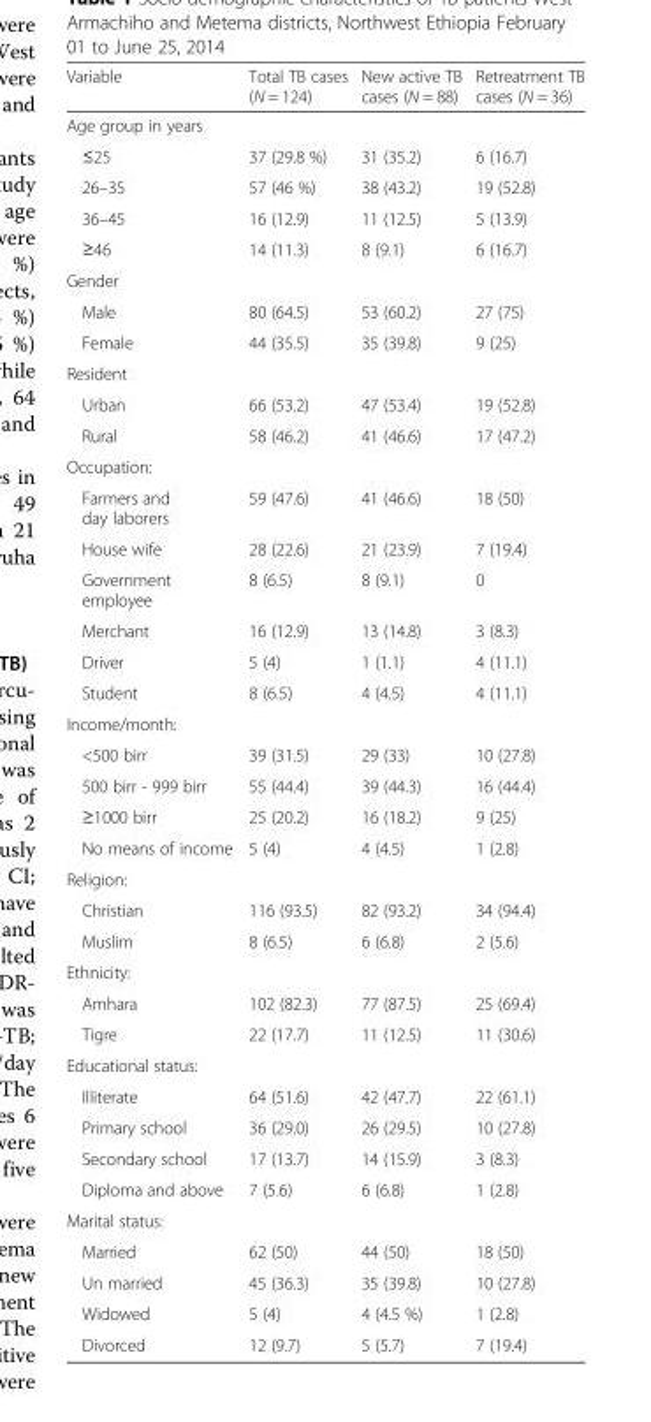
<table><thead><tr><td>Variable</td><td>Total TB cases (N = 124)</td><td>New active TB cases (N = 88)</td><td>Retreatment TB cases (N = 36)</td></tr></thead><tbody><tr><td colspan="4">Age group in years</td></tr><tr><td>≤25</td><td>37 (29.8 %)</td><td>31 (35.2)</td><td>6 (16.7)</td></tr><tr><td>26–35</td><td>57 (46 %)</td><td>38 (43.2)</td><td>19 (52.8)</td></tr><tr><td>36–45</td><td>16 (12.9)</td><td>11 (12.5)</td><td>5 (13.9)</td></tr><tr><td>≥46</td><td>14 (11.3)</td><td>8 (9.1)</td><td>6 (16.7)</td></tr><tr><td colspan="4">Gender</td></tr><tr><td>Male</td><td>80 (64.5)</td><td>53 (60.2)</td><td>27 (75)</td></tr><tr><td>Female</td><td>44 (35.5)</td><td>35 (39.8)</td><td>9 (25)</td></tr><tr><td colspan="4">Resident</td></tr><tr><td>Urban</td><td>66 (53.2)</td><td>47 (53.4)</td><td>19 (52.8)</td></tr><tr><td>Rural</td><td>58 (46.2)</td><td>41 (46.6)</td><td>17 (47.2)</td></tr><tr><td colspan="4">Occupation:</td></tr><tr><td>Farmers and day laborers</td><td>59 (47.6)</td><td>41 (46.6)</td><td>18 (50)</td></tr><tr><td>House wife</td><td>28 (22.6)</td><td>21 (23.9)</td><td>7 (19.4)</td></tr><tr><td>Government employee</td><td>8 (6.5)</td><td>8 (9.1)</td><td>0</td></tr><tr><td>Merchant</td><td>16 (12.9)</td><td>13 (14.8)</td><td>3 (8.3)</td></tr><tr><td>Driver</td><td>5 (4)</td><td>1 (1.1)</td><td>4 (11.1)</td></tr><tr><td>Student</td><td>8 (6.5)</td><td>4 (4.5)</td><td>4 (11.1)</td></tr><tr><td colspan="4">Income/month:</td></tr><tr><td>&lt;500 birr</td><td>39 (31.5)</td><td>29 (33)</td><td>10 (27.8)</td></tr><tr><td>500 birr - 999 birr</td><td>55 (44.4)</td><td>39 (44.3)</td><td>16 (44.4)</td></tr><tr><td>≥1000 birr</td><td>25 (20.2)</td><td>16 (18.2)</td><td>9 (25)</td></tr><tr><td>No means of income</td><td>5 (4)</td><td>4 (4.5)</td><td>1 (2.8)</td></tr><tr><td colspan="4">Religion:</td></tr><tr><td>Christian</td><td>116 (93.5)</td><td>82 (93.2)</td><td>34 (94.4)</td></tr><tr><td>Muslim</td><td>8 (6.5)</td><td>6 (6.8)</td><td>2 (5.6)</td></tr><tr><td colspan="4">Ethnicity:</td></tr><tr><td>Amhara</td><td>102 (82.3)</td><td>77 (87.5)</td><td>25 (69.4)</td></tr><tr><td>Tigre</td><td>22 (17.7)</td><td>11 (12.5)</td><td>11 (30.6)</td></tr><tr><td colspan="4">Educational status:</td></tr><tr><td>Illiterate</td><td>64 (51.6)</td><td>42 (47.7)</td><td>22 (61.1)</td></tr><tr><td>Primary school</td><td>36 (29.0)</td><td>26 (29.5)</td><td>10 (27.8)</td></tr><tr><td>Secondary school</td><td>17 (13.7)</td><td>14 (15.9)</td><td>3 (8.3)</td></tr><tr><td>Diploma and above</td><td>7 (5.6)</td><td>6 (6.8)</td><td>1 (2.8)</td></tr><tr><td colspan="4">Marital status:</td></tr><tr><td>Married</td><td>62 (50)</td><td>44 (50)</td><td>18 (50)</td></tr><tr><td>Un married</td><td>45 (36.3)</td><td>35 (39.8)</td><td>10 (27.8)</td></tr><tr><td>Widowed</td><td>5 (4)</td><td>4 (4.5 %)</td><td>1 (2.8)</td></tr><tr><td>Divorced</td><td>12 (9.7)</td><td>5 (5.7)</td><td>7 (19.4)</td></tr></tbody></table>